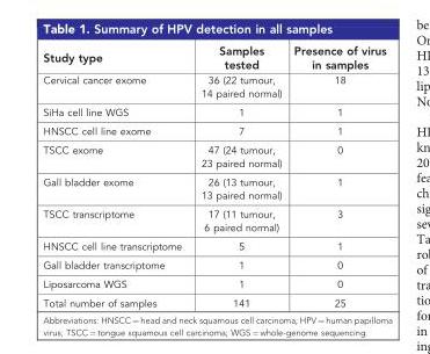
<table><thead><tr><td>Study type</td><td>Samples tested</td><td>Presence of virus in samples</td></tr></thead><tbody><tr><td>Cervical cancer exome</td><td>36 (22 tumour, 14 paired normal)</td><td>18</td></tr><tr><td>SiHa cell line WGS</td><td>1</td><td>1</td></tr><tr><td>HNSCC cell line exome</td><td>7</td><td>1</td></tr><tr><td>TSCC exome</td><td>47 (24 tumour, 23 paired normal)</td><td>0</td></tr><tr><td>Gall bladder exome</td><td>26 (13 tumour, 13 paired normal)</td><td>1</td></tr><tr><td>TSCC transcriptome</td><td>17 (11 tumour, 6 paired normal)</td><td>3</td></tr><tr><td>HNSCC cell line transcriptome</td><td>5</td><td>1</td></tr><tr><td>Gall bladder transcriptome</td><td>1</td><td>0</td></tr><tr><td>Liposarcoma WGS</td><td>1</td><td>0</td></tr><tr><td>Total number of samples</td><td>141</td><td>25</td></tr></tbody></table>